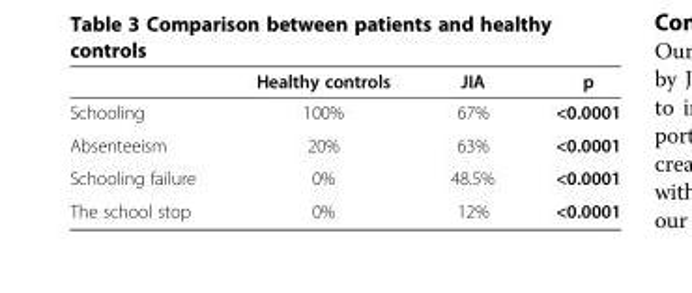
<table><thead><tr><td></td><td>Healthy controls</td><td>JIA</td><td>p</td></tr></thead><tbody><tr><td>Schooling</td><td>100%</td><td>67%</td><td>&lt;0.0001</td></tr><tr><td>Absenteeism</td><td>20%</td><td>63%</td><td>&lt;0.0001</td></tr><tr><td>Schooling failure</td><td>0%</td><td>48.5%</td><td>&lt;0.0001</td></tr><tr><td>The school stop</td><td>0%</td><td>12%</td><td>&lt;0.0001</td></tr></tbody></table>